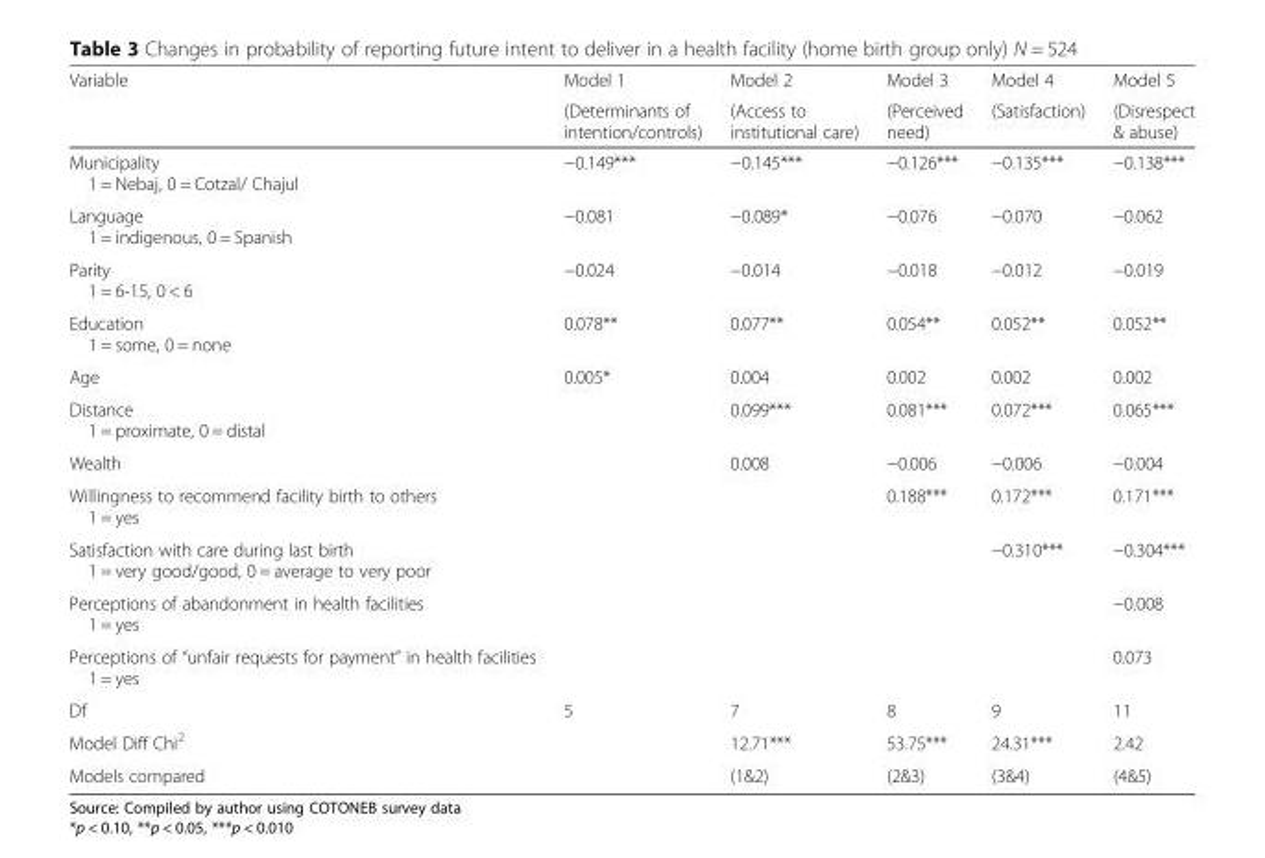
<table><thead><tr><td rowspan="2">Variable</td><td rowspan="2">Model 1 (Determinants of intention/controls)</td><td rowspan="2">Model 2 (Access to institutional care)</td><td rowspan="2">Model 3 (Perceived need)</td><td rowspan="2">Model 4 (Satisfaction)</td><td rowspan="2">Model 5 (Disrespect &amp; abuse)</td></tr><tr></tr></thead><tbody><tr><td>Municipality 1 = Nebaj, 0 = Cotzal/ Chajul</td><td>−0.149***</td><td>−0.145***</td><td>−0.126***</td><td>−0.135***</td><td>−0.138***</td></tr><tr><td>Language 1 = indigenous, 0 = Spanish</td><td>−0.081</td><td>−0.089*</td><td>−0.076</td><td>−0.070</td><td>−0.062</td></tr><tr><td>Parity 1 = 6-15, 0 &lt; 6</td><td>−0.024</td><td>−0.014</td><td>−0.018</td><td>−0.012</td><td>−0.019</td></tr><tr><td>Education 1 = some, 0 = none</td><td>0.078**</td><td>0.077**</td><td>0.054**</td><td>0.052**</td><td>0.052**</td></tr><tr><td>Age</td><td>0.005*</td><td>0.004</td><td>0.002</td><td>0.002</td><td>0.002</td></tr><tr><td>Distance 1 = proximate, 0 = distal</td><td></td><td>0.099***</td><td>0.081***</td><td>0.072***</td><td>0.065***</td></tr><tr><td>Wealth</td><td></td><td>0.008</td><td>−0.006</td><td>−0.006</td><td>−0.004</td></tr><tr><td>Willingness to recommend facility birth to others 1 = yes</td><td></td><td></td><td>0.188***</td><td>0.172***</td><td>0.171***</td></tr><tr><td>Satisfaction with care during last birth 1 = very good/good, 0 = average to very poor</td><td></td><td></td><td></td><td>−0.310***</td><td>−0.304***</td></tr><tr><td>Perceptions of abandonment in health facilities 1 = yes</td><td></td><td></td><td></td><td></td><td>−0.008</td></tr><tr><td>Perceptions of “unfair requests for payment” in health facilities 1 = yes</td><td></td><td></td><td></td><td></td><td>0.073</td></tr><tr><td>Df</td><td>5</td><td>7</td><td>8</td><td>9</td><td>11</td></tr><tr><td>Model Diff Chi<sup>2</sup></td><td></td><td>12.71***</td><td>53.75***</td><td>24.31***</td><td>2.42</td></tr><tr><td>Models compared</td><td></td><td>(1&amp;2)</td><td>(2&amp;3)</td><td>(3&amp;4)</td><td>(4&amp;5)</td></tr></tbody></table>